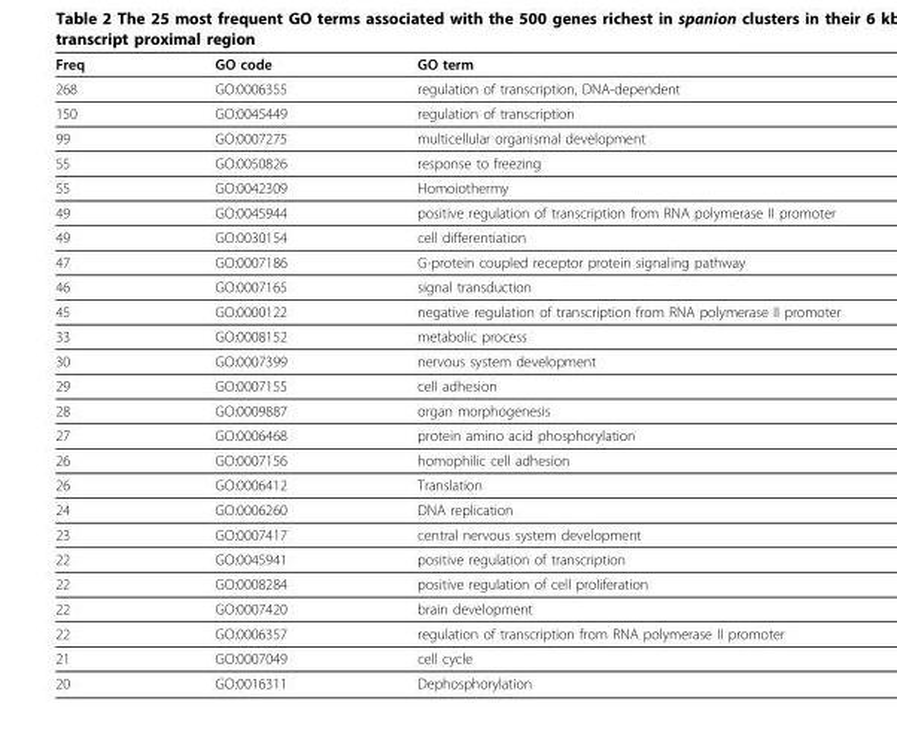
<table><thead><tr><td>Freq</td><td>GO code</td><td>GO term</td></tr></thead><tbody><tr><td>268</td><td>GO:0006355</td><td>regulation of transcription, DNA-dependent</td></tr><tr><td>150</td><td>GO:0045449</td><td>regulation of transcription</td></tr><tr><td>99</td><td>GO:0007275</td><td>multicellular organismal development</td></tr><tr><td>55</td><td>GO:0050826</td><td>response to freezing</td></tr><tr><td>55</td><td>GO:0042309</td><td>Homoiothermy</td></tr><tr><td>49</td><td>GO:0045944</td><td>positive regulation of transcription from RNA polymerase II promoter</td></tr><tr><td>49</td><td>GO:0030154</td><td>cell differentiation</td></tr><tr><td>47</td><td>GO:0007186</td><td>G-protein coupled receptor protein signaling pathway</td></tr><tr><td>46</td><td>GO:0007165</td><td>signal transduction</td></tr><tr><td>45</td><td>GO:0000122</td><td>negative regulation of transcription from RNA polymerase II promoter</td></tr><tr><td>33</td><td>GO:0008152</td><td>metabolic process</td></tr><tr><td>30</td><td>GO:0007399</td><td>nervous system development</td></tr><tr><td>29</td><td>GO:0007155</td><td>cell adhesion</td></tr><tr><td>28</td><td>GO:0009887</td><td>organ morphogenesis</td></tr><tr><td>27</td><td>GO:0006468</td><td>protein amino acid phosphorylation</td></tr><tr><td>26</td><td>GO:0007156</td><td>homophilic cell adhesion</td></tr><tr><td>26</td><td>GO:0006412</td><td>Translation</td></tr><tr><td>24</td><td>GO:0006260</td><td>DNA replication</td></tr><tr><td>23</td><td>GO:0007417</td><td>central nervous system development</td></tr><tr><td>22</td><td>GO:0045941</td><td>positive regulation of transcription</td></tr><tr><td>22</td><td>GO:0008284</td><td>positive regulation of cell proliferation</td></tr><tr><td>22</td><td>GO:0007420</td><td>brain development</td></tr><tr><td>22</td><td>GO:0006357</td><td>regulation of transcription from RNA polymerase II promoter</td></tr><tr><td>21</td><td>GO:0007049</td><td>cell cycle</td></tr><tr><td>20</td><td>GO:0016311</td><td>Dephosphorylation</td></tr></tbody></table>